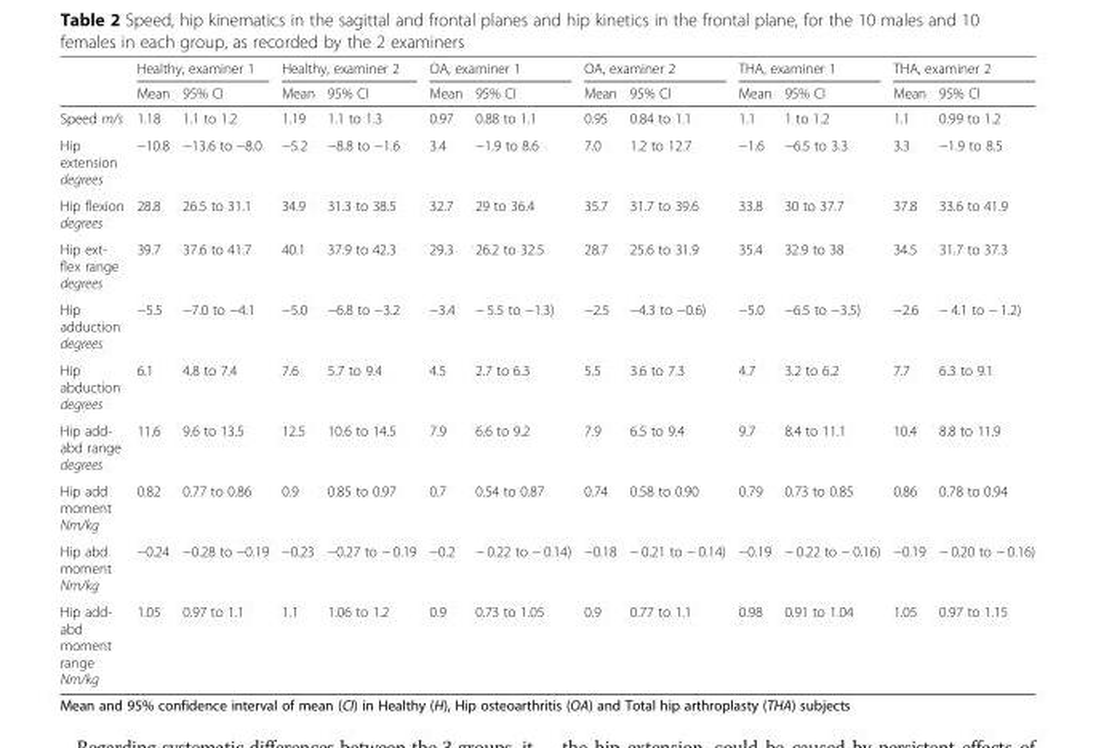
<table><thead><tr><td rowspan="2"></td><td colspan="2">Healthy, examiner 1</td><td colspan="2">Healthy, examiner 2</td><td colspan="2">OA, examiner 1</td><td colspan="2">OA, examiner 2</td><td colspan="2">THA, examiner 1</td><td colspan="2">THA, examiner 2</td></tr><tr><td>Mean</td><td>95% CI</td><td>Mean</td><td>95% CI</td><td>Mean</td><td>95% CI</td><td>Mean</td><td>95% CI</td><td>Mean</td><td>95% CI</td><td>Mean</td><td>95% CI</td></tr></thead><tbody><tr><td>Speed m/s</td><td>1.18</td><td>1.1 to 1.2</td><td>1.19</td><td>1.1 to 1.3</td><td>0.97</td><td>0.88 to 1.1</td><td>0.95</td><td>0.84 to 1.1</td><td>1.1</td><td>1 to 1.2</td><td>1.1</td><td>0.99 to 1.2</td></tr><tr><td>Hip extension degrees</td><td>−10.8</td><td>−13.6 to −8.0</td><td>−5.2</td><td>−8.8 to −1.6</td><td>3.4</td><td>−1.9 to 8.6</td><td>7.0</td><td>1.2 to 12.7</td><td>−1.6</td><td>−6.5 to 3.3</td><td>3.3</td><td>−1.9 to 8.5</td></tr><tr><td>Hip flexion degrees</td><td>28.8</td><td>26.5 to 31.1</td><td>34.9</td><td>31.3 to 38.5</td><td>32.7</td><td>29 to 36.4</td><td>35.7</td><td>31.7 to 39.6</td><td>33.8</td><td>30 to 37.7</td><td>37.8</td><td>33.6 to 41.9</td></tr><tr><td>Hip ext- flex range degrees</td><td>39.7</td><td>37.6 to 41.7</td><td>40.1</td><td>37.9 to 42.3</td><td>29.3</td><td>26.2 to 32.5</td><td>28.7</td><td>25.6 to 31.9</td><td>35.4</td><td>32.9 to 38</td><td>34.5</td><td>31.7 to 37.3</td></tr><tr><td>Hip adduction degrees</td><td>−5.5</td><td>−7.0 to −4.1</td><td>−5.0</td><td>−6.8 to −3.2</td><td>−3.4</td><td>− 5.5 to −1.3)</td><td>−2.5</td><td>−4.3 to −0.6)</td><td>−5.0</td><td>−6.5 to −3.5)</td><td>−2.6</td><td>− 4.1 to − 1.2)</td></tr><tr><td>Hip abduction degrees</td><td>6.1</td><td>4.8 to 7.4</td><td>7.6</td><td>5.7 to 9.4</td><td>4.5</td><td>2.7 to 6.3</td><td>5.5</td><td>3.6 to 7.3</td><td>4.7</td><td>3.2 to 6.2</td><td>7.7</td><td>6.3 to 9.1</td></tr><tr><td>Hip add- abd range degrees</td><td>11.6</td><td>9.6 to 13.5</td><td>12.5</td><td>10.6 to 14.5</td><td>7.9</td><td>6.6 to 9.2</td><td>7.9</td><td>6.5 to 9.4</td><td>9.7</td><td>8.4 to 11.1</td><td>10.4</td><td>8.8 to 11.9</td></tr><tr><td>Hip add moment Nm/kg</td><td>0.82</td><td>0.77 to 0.86</td><td>0.9</td><td>0.85 to 0.97</td><td>0.7</td><td>0.54 to 0.87</td><td>0.74</td><td>0.58 to 0.90</td><td>0.79</td><td>0.73 to 0.85</td><td>0.86</td><td>0.78 to 0.94</td></tr><tr><td>Hip abd moment Nm/kg</td><td>−0.24</td><td>−0.28 to −0.19</td><td>−0.23</td><td>−0.27 to − 0.19</td><td>−0.2</td><td>− 0.22 to − 0.14)</td><td>−0.18</td><td>− 0.21 to − 0.14)</td><td>−0.19</td><td>− 0.22 to − 0.16)</td><td>−0.19</td><td>− 0.20 to − 0.16)</td></tr><tr><td>Hip add- abd moment range Nm/kg</td><td>1.05</td><td>0.97 to 1.1</td><td>1.1</td><td>1.06 to 1.2</td><td>0.9</td><td>0.73 to 1.05</td><td>0.9</td><td>0.77 to 1.1</td><td>0.98</td><td>0.91 to 1.04</td><td>1.05</td><td>0.97 to 1.15</td></tr></tbody></table>